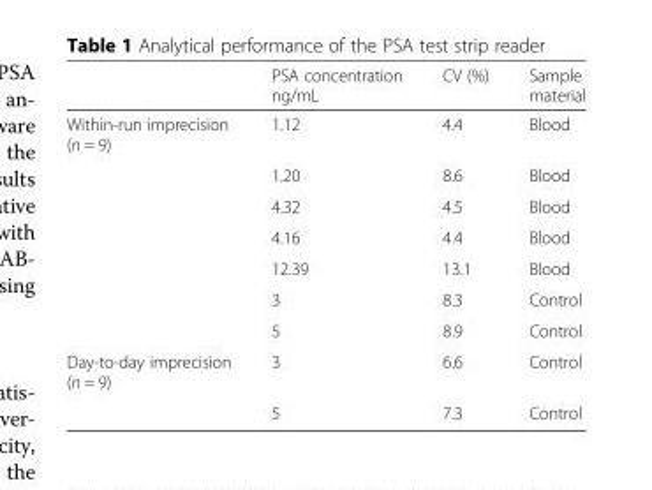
<table><thead><tr><td></td><td>PSA concentration ng/mL</td><td>CV (%)</td><td>Sample material</td></tr></thead><tbody><tr><td rowspan="7">Within-run imprecision (n = 9)</td><td>1.12</td><td>4.4</td><td>Blood</td></tr><tr><td>1.20</td><td>8.6</td><td>Blood</td></tr><tr><td>4.32</td><td>4.5</td><td>Blood</td></tr><tr><td>4.16</td><td>4.4</td><td>Blood</td></tr><tr><td>12.39</td><td>13.1</td><td>Blood</td></tr><tr><td>3</td><td>8.3</td><td>Control</td></tr><tr><td>5</td><td>8.9</td><td>Control</td></tr><tr><td rowspan="2">Day-to-day imprecision (n = 9)</td><td>3</td><td>6.6</td><td>Control</td></tr><tr><td>5</td><td>7.3</td><td>Control</td></tr></tbody></table>